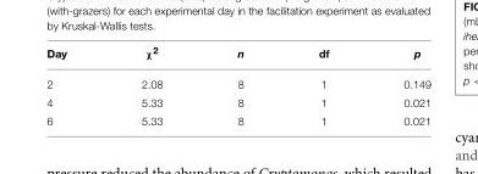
<table><thead><tr><td>Day</td><td>χ<sup>2</sup></td><td>n</td><td>df</td><td>p</td></tr></thead><tbody><tr><td>2</td><td>2.08</td><td>8</td><td>1</td><td>0.149</td></tr><tr><td>4</td><td>5.33</td><td>8</td><td>1</td><td>0.021</td></tr><tr><td>6</td><td>5.33</td><td>8</td><td>1</td><td>0.021</td></tr></tbody></table>